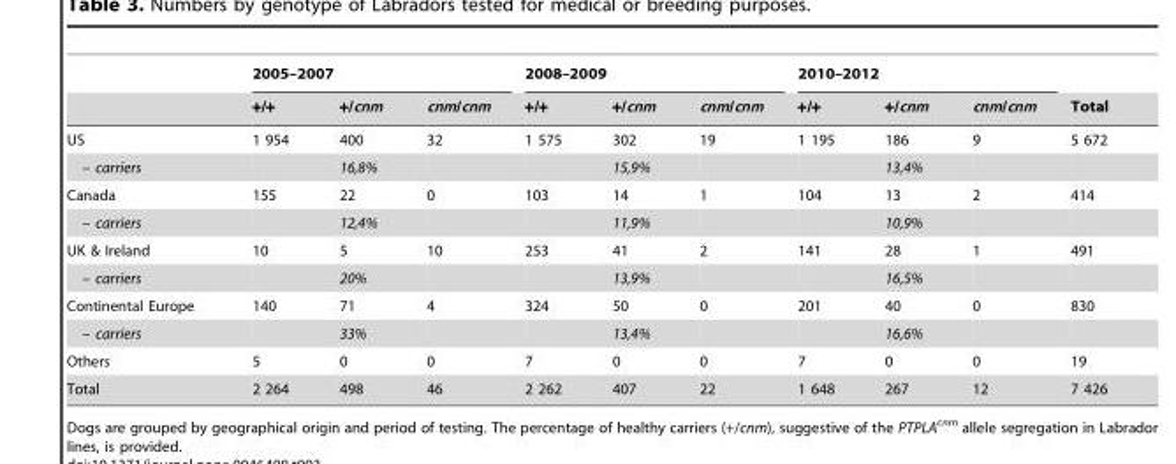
<table><thead><tr><td rowspan="2"></td><td colspan="3">2005–2007</td><td colspan="3">2008–2009</td><td colspan="3">2010–2012</td><td rowspan="2">Total</td></tr><tr><td>+/+</td><td>+/cnm</td><td>cnm/cnm</td><td>+/+</td><td>+/cnm</td><td>cnm/cnm</td><td>+/+</td><td>+/cnm</td><td>cnm/cnm</td></tr></thead><tbody><tr><td>US</td><td>1 954</td><td>400</td><td>32</td><td>1 575</td><td>302</td><td>19</td><td>1 195</td><td>186</td><td>9</td><td>5 672</td></tr><tr><td>– carriers</td><td></td><td>16,8%</td><td></td><td></td><td>15,9%</td><td></td><td></td><td>13,4%</td><td></td><td></td></tr><tr><td>Canada</td><td>155</td><td>22</td><td>0</td><td>103</td><td>14</td><td>1</td><td>104</td><td>13</td><td>2</td><td>414</td></tr><tr><td>– carriers</td><td></td><td>12,4%</td><td></td><td></td><td>11,9%</td><td></td><td></td><td>10,9%</td><td></td><td></td></tr><tr><td>UK &amp; Ireland</td><td>10</td><td>5</td><td>10</td><td>253</td><td>41</td><td>2</td><td>141</td><td>28</td><td>1</td><td>491</td></tr><tr><td>– carriers</td><td></td><td>20%</td><td></td><td></td><td>13,9%</td><td></td><td></td><td>16,5%</td><td></td><td></td></tr><tr><td>Continental Europe</td><td>140</td><td>71</td><td>4</td><td>324</td><td>50</td><td>0</td><td>201</td><td>40</td><td>0</td><td>830</td></tr><tr><td>– carriers</td><td></td><td>33%</td><td></td><td></td><td>13,4%</td><td></td><td></td><td>16,6%</td><td></td><td></td></tr><tr><td>Others</td><td>5</td><td>0</td><td>0</td><td>7</td><td>0</td><td>0</td><td>7</td><td>0</td><td>0</td><td>19</td></tr><tr><td>Total</td><td>2 264</td><td>498</td><td>46</td><td>2 262</td><td>407</td><td>22</td><td>1 648</td><td>267</td><td>12</td><td>7 426</td></tr></tbody></table>